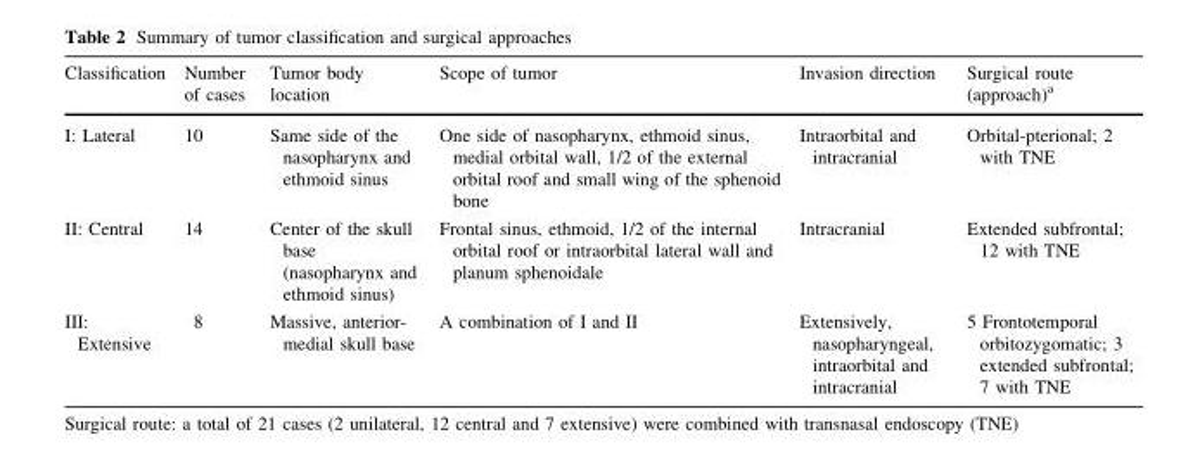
<table><thead><tr><td>Classification</td><td>Number of cases</td><td>Tumor body location</td><td>Scope of tumor</td><td>Invasion direction</td><td>Surgical route (approach)<sup>a</sup></td></tr></thead><tbody><tr><td>I: Lateral</td><td>10</td><td>Same side of the nasopharynx and ethmoid sinus</td><td>One side of nasopharynx, ethmoid sinus, medial orbital wall, 1/2 of the external orbital roof and small wing of the sphenoid bone</td><td>Intraorbital and intracranial</td><td>Orbital-pterional; 2 with TNE</td></tr><tr><td>II: Central</td><td>14</td><td>Center of the skull base (nasopharynx and ethmoid sinus)</td><td>Frontal sinus, ethmoid, 1/2 of the internal orbital roof or intraorbital lateral wall and planum sphenoidale</td><td>Intracranial</td><td>Extended subfrontal; 12 with TNE</td></tr><tr><td>III: Extensive</td><td>8</td><td>Massive, anterior- medial skull base</td><td>A combination of I and II</td><td>Extensively, nasopharyngeal, intraorbital and intracranial</td><td>5 Frontotemporal orbitozygomatic; 3 extended subfrontal; 7 with TNE</td></tr></tbody></table>